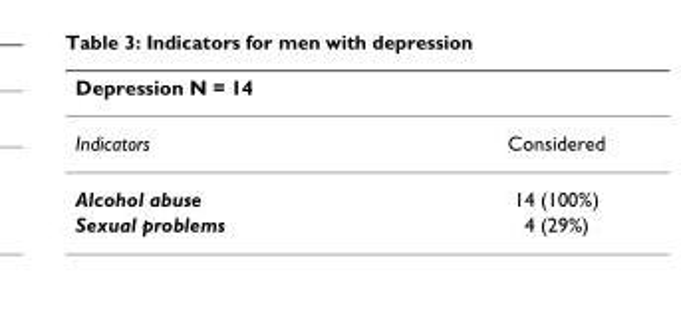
<table><thead><tr><td>Depression N = 14</td><td></td></tr></thead><tbody><tr><td>Indicators</td><td>Considered</td></tr><tr><td>Alcohol abuse</td><td>14 (100%)</td></tr><tr><td>Sexual problems</td><td>4 (29%)</td></tr></tbody></table>